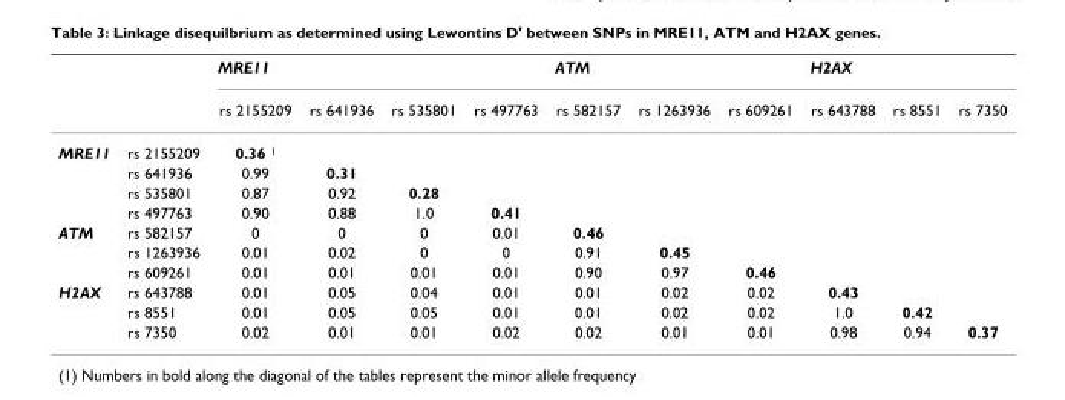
<table><thead><tr><td rowspan="2"></td><td rowspan="2"></td><td colspan="4">MRE11</td><td colspan="3">ATM</td><td colspan="3">H2AX</td></tr><tr><td>rs 2155209</td><td>rs 641936</td><td>rs 535801</td><td>rs 497763</td><td>rs 582157</td><td>rs 1263936</td><td>rs 609261</td><td>rs 643788</td><td>rs 8551</td><td>rs 7350</td></tr></thead><tbody><tr><td rowspan="4">MRE11</td><td>rs 2155209</td><td>0.36 <sup>1</sup></td><td></td><td></td><td></td><td></td><td></td><td></td><td></td><td></td><td></td></tr><tr><td>rs 641936</td><td>0.99</td><td>0.31</td><td></td><td></td><td></td><td></td><td></td><td></td><td></td><td></td></tr><tr><td>rs 535801</td><td>0.87</td><td>0.92</td><td>0.28</td><td></td><td></td><td></td><td></td><td></td><td></td><td></td></tr><tr><td>rs 497763</td><td>0.90</td><td>0.88</td><td>1.0</td><td>0.41</td><td></td><td></td><td></td><td></td><td></td><td></td></tr><tr><td rowspan="3">ATM</td><td>rs 582157</td><td>0</td><td>0</td><td>0</td><td>0.01</td><td>0.46</td><td></td><td></td><td></td><td></td><td></td></tr><tr><td>rs 1263936</td><td>0.01</td><td>0.02</td><td>0</td><td>0</td><td>0.91</td><td>0.45</td><td></td><td></td><td></td><td></td></tr><tr><td>rs 609261</td><td>0.01</td><td>0.01</td><td>0.01</td><td>0.01</td><td>0.90</td><td>0.97</td><td>0.46</td><td></td><td></td><td></td></tr><tr><td rowspan="3">H2AX</td><td>rs 643788</td><td>0.01</td><td>0.05</td><td>0.04</td><td>0.01</td><td>0.01</td><td>0.02</td><td>0.02</td><td>0.43</td><td></td><td></td></tr><tr><td>rs 8551</td><td>0.01</td><td>0.05</td><td>0.05</td><td>0.01</td><td>0.01</td><td>0.02</td><td>0.02</td><td>1.0</td><td>0.42</td><td></td></tr><tr><td>rs 7350</td><td>0.02</td><td>0.01</td><td>0.01</td><td>0.02</td><td>0.02</td><td>0.01</td><td>0.01</td><td>0.98</td><td>0.94</td><td>0.37</td></tr></tbody></table>